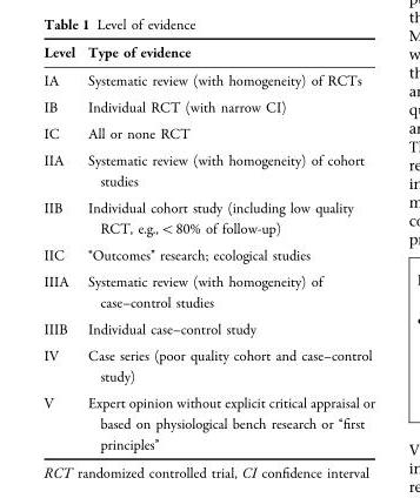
<table><thead><tr><td>Level</td><td>Type of evidence</td></tr></thead><tbody><tr><td>IA</td><td>Systematic review (with homogeneity) of RCTs</td></tr><tr><td>IB</td><td>Individual RCT (with narrow CI)</td></tr><tr><td>IC</td><td>All or none RCT</td></tr><tr><td>IIA</td><td>Systematic review (with homogeneity) of cohort studies</td></tr><tr><td>IIB</td><td>Individual cohort study (including low quality RCT, e.g.,&lt;80% of follow-up)</td></tr><tr><td>IIC</td><td>‘‘Outcomes’’ research; ecological studies</td></tr><tr><td>IIIA</td><td>Systematic review (with homogeneity) of case–control studies</td></tr><tr><td>IIIB</td><td>Individual case–control study</td></tr><tr><td>IV</td><td>Case series (poor quality cohort and case–control study)</td></tr><tr><td>V</td><td>Expert opinion without explicit critical appraisal or based on physiological bench research or ‘‘first principles’’</td></tr></tbody></table>